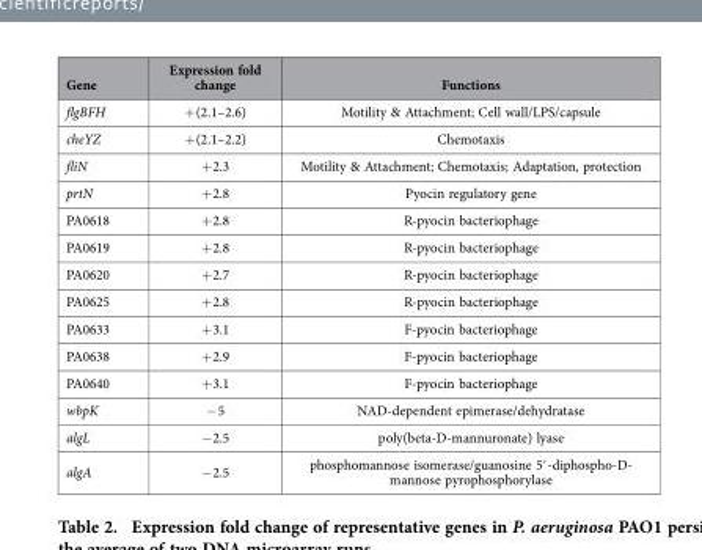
<table><thead><tr><td>Gene</td><td>Expression fold change</td><td>Functions</td></tr></thead><tbody><tr><td>flgBFH</td><td>+ (2.1–2.6)</td><td>Motility &amp; Attachment; Cell wall/LPS/capsule</td></tr><tr><td>cheYZ</td><td>+ (2.1–2.2)</td><td>Chemotaxis</td></tr><tr><td>fliN</td><td>+ 2.3</td><td>Motility &amp; Attachment; Chemotaxis; Adaptation, protection</td></tr><tr><td>prtN</td><td>+ 2.8</td><td>Pyocin regulatory gene</td></tr><tr><td>PA0618</td><td>+ 2.8</td><td>R-pyocin bacteriophage</td></tr><tr><td>PA0619</td><td>+ 2.8</td><td>R-pyocin bacteriophage</td></tr><tr><td>PA0620</td><td>+ 2.7</td><td>R-pyocin bacteriophage</td></tr><tr><td>PA0625</td><td>+ 2.8</td><td>R-pyocin bacteriophage</td></tr><tr><td>PA0633</td><td>+ 3.1</td><td>F-pyocin bacteriophage</td></tr><tr><td>PA0638</td><td>+ 2.9</td><td>F-pyocin bacteriophage</td></tr><tr><td>PA0640</td><td>+ 3.1</td><td>F-pyocin bacteriophage</td></tr><tr><td>wbpK</td><td>− 5</td><td>NAD-dependent epimerase/dehydratase</td></tr><tr><td>algL</td><td>− 2.5</td><td>poly(beta-D-mannuronate) lyase</td></tr><tr><td>algA</td><td>− 2.5</td><td>phosphomannose isomerase/guanosine 5′ -diphospho-D- mannose pyrophosphorylase</td></tr></tbody></table>